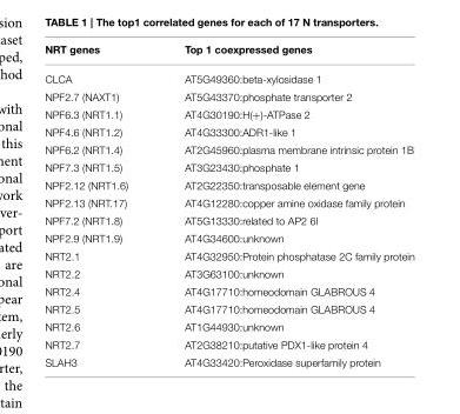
<table><thead><tr><td>NRT genes</td><td>Top 1 coexpressed genes</td></tr></thead><tbody><tr><td>CLCA</td><td>AT5G49360:beta-xylosidase 1</td></tr><tr><td>NPF2.7 (NAXT1)</td><td>AT5G43370:phosphate transporter 2</td></tr><tr><td>NPF6.3 (NRT1.1)</td><td>AT4G30190:H(+)-ATPase 2</td></tr><tr><td>NPF4.6 (NRT1.2)</td><td>AT4G33300:ADR1-like 1</td></tr><tr><td>NPF6.2 (NRT1.4)</td><td>AT2G45960:plasma membrane intrinsic protein 1B</td></tr><tr><td>NPF7.3 (NRT1.5)</td><td>AT3G23430:phosphate 1</td></tr><tr><td>NPF2.12 (NRT1.6)</td><td>AT2G22350:transposable element gene</td></tr><tr><td>NPF2.13 (NRT.17)</td><td>AT4G12280:copper amine oxidase family protein</td></tr><tr><td>NPF7.2 (NRT1.8)</td><td>AT5G13330:related to AP2 6l</td></tr><tr><td>NPF2.9 (NRT1.9)</td><td>AT4G34600:unknown</td></tr><tr><td>NRT2.1</td><td>AT4G32950:Protein phosphatase 2C family protein</td></tr><tr><td>NRT2.2</td><td>AT3G63100:unknown</td></tr><tr><td>NRT2.4</td><td>AT4G17710:homeodomain GLABROUS 4</td></tr><tr><td>NRT2.5</td><td>AT4G17710:homeodomain GLABROUS 4</td></tr><tr><td>NRT2.6</td><td>AT1G44930:unknown</td></tr><tr><td>NRT2.7</td><td>AT2G38210:putative PDX1-like protein 4</td></tr><tr><td>SLAH3</td><td>AT4G33420:Peroxidase superfamily protein</td></tr></tbody></table>